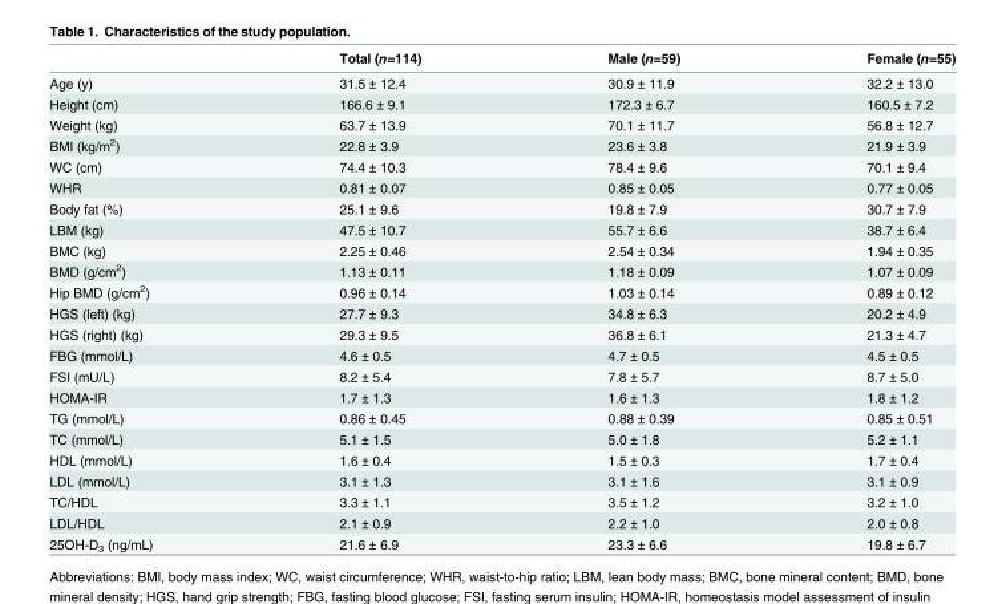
<table><thead><tr><td></td><td>Total (n=114)</td><td>Male (n=59)</td><td>Female (n=55)</td></tr></thead><tbody><tr><td>Age (y)</td><td>31.5 ± 12.4</td><td>30.9 ± 11.9</td><td>32.2 ± 13.0</td></tr><tr><td>Height (cm)</td><td>166.6 ± 9.1</td><td>172.3 ± 6.7</td><td>160.5 ± 7.2</td></tr><tr><td>Weight (kg)</td><td>63.7 ± 13.9</td><td>70.1 ± 11.7</td><td>56.8 ± 12.7</td></tr><tr><td>BMI (kg/m<sup>2</sup>)</td><td>22.8 ± 3.9</td><td>23.6 ± 3.8</td><td>21.9 ± 3.9</td></tr><tr><td>WC (cm)</td><td>74.4 ± 10.3</td><td>78.4 ± 9.6</td><td>70.1 ± 9.4</td></tr><tr><td>WHR</td><td>0.81 ± 0.07</td><td>0.85 ± 0.05</td><td>0.77 ± 0.05</td></tr><tr><td>Body fat (%)</td><td>25.1 ± 9.6</td><td>19.8 ± 7.9</td><td>30.7 ± 7.9</td></tr><tr><td>LBM (kg)</td><td>47.5 ± 10.7</td><td>55.7 ± 6.6</td><td>38.7 ± 6.4</td></tr><tr><td>BMC (kg)</td><td>2.25 ± 0.46</td><td>2.54 ± 0.34</td><td>1.94 ± 0.35</td></tr><tr><td>BMD (g/cm<sup>2</sup>)</td><td>1.13 ± 0.11</td><td>1.18 ± 0.09</td><td>1.07 ± 0.09</td></tr><tr><td>Hip BMD (g/cm<sup>2</sup>)</td><td>0.96 ± 0.14</td><td>1.03 ± 0.14</td><td>0.89 ± 0.12</td></tr><tr><td>HGS (left) (kg)</td><td>27.7 ± 9.3</td><td>34.8 ± 6.3</td><td>20.2 ± 4.9</td></tr><tr><td>HGS (right) (kg)</td><td>29.3 ± 9.5</td><td>36.8 ± 6.1</td><td>21.3 ± 4.7</td></tr><tr><td>FBG (mmol/L)</td><td>4.6 ± 0.5</td><td>4.7 ± 0.5</td><td>4.5 ± 0.5</td></tr><tr><td>FSI (mU/L)</td><td>8.2 ± 5.4</td><td>7.8 ± 5.7</td><td>8.7 ± 5.0</td></tr><tr><td>HOMA-IR</td><td>1.7 ± 1.3</td><td>1.6 ± 1.3</td><td>1.8 ± 1.2</td></tr><tr><td>TG (mmol/L)</td><td>0.86 ± 0.45</td><td>0.88 ± 0.39</td><td>0.85 ± 0.51</td></tr><tr><td>TC (mmol/L)</td><td>5.1 ± 1.5</td><td>5.0 ± 1.8</td><td>5.2 ± 1.1</td></tr><tr><td>HDL (mmol/L)</td><td>1.6 ± 0.4</td><td>1.5 ± 0.3</td><td>1.7 ± 0.4</td></tr><tr><td>LDL (mmol/L)</td><td>3.1 ± 1.3</td><td>3.1 ± 1.6</td><td>3.1 ± 0.9</td></tr><tr><td>TC/HDL</td><td>3.3 ± 1.1</td><td>3.5 ± 1.2</td><td>3.2 ± 1.0</td></tr><tr><td>LDL/HDL</td><td>2.1 ± 0.9</td><td>2.2 ± 1.0</td><td>2.0 ± 0.8</td></tr><tr><td>25OH-D<sub>3</sub> (ng/mL)</td><td>21.6 ± 6.9</td><td>23.3 ± 6.6</td><td>19.8 ± 6.7</td></tr></tbody></table>